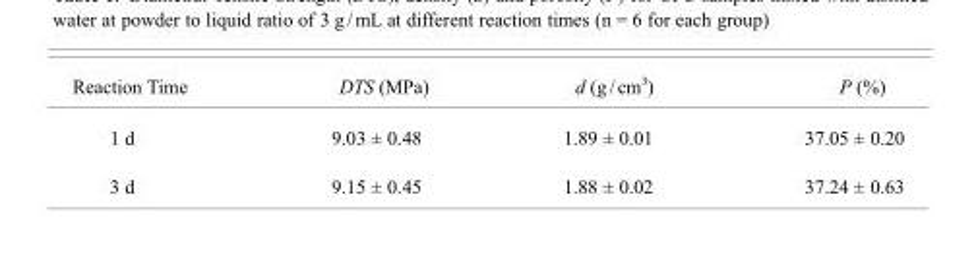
<table><thead><tr><td>Reaction Time</td><td>DTS (MPa)</td><td>d (g/cm<sup>3</sup>)</td><td>P (%)</td></tr></thead><tbody><tr><td>1 d</td><td>9.03 ± 0.48</td><td>1.89 ± 0.01</td><td>37.05 ± 0.20</td></tr><tr><td>3 d</td><td>9.15 ± 0.45</td><td>1.88 ± 0.02</td><td>37.24 ± 0.63</td></tr></tbody></table>